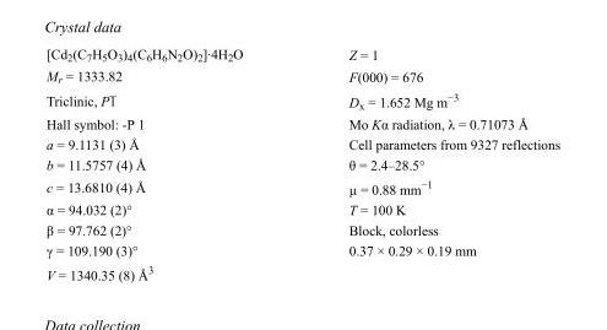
<table><tbody><tr><td>[Cd<sub>2</sub>(C<sub>7</sub>H<sub>5</sub>O<sub>3</sub>)<sub>4</sub>(C<sub>6</sub>H<sub>6</sub>N<sub>2</sub>O)<sub>2</sub>]·4H<sub>2</sub>O</td><td>Z = 1</td></tr><tr><td>M<sub>r</sub> = 1333.82</td><td>F(000) = 676</td></tr><tr><td>Triclinic, P1</td><td>D<sub>x</sub> = 1.652 Mg m<sup>−3</sup></td></tr><tr><td>Hall symbol: -P 1</td><td>Mo Kα radiation, λ = 0.71073 Å</td></tr><tr><td>a = 9.1131 (3) Å</td><td>Cell parameters from 9327 reflections</td></tr><tr><td>b = 11.5757 (4) Å</td><td>θ = 2.4–28.5°</td></tr><tr><td>c = 13.6810 (4) Å</td><td>µ = 0.88 mm<sup>−1</sup></td></tr><tr><td>α = 94.032 (2)°</td><td>T = 100 K</td></tr><tr><td>β = 97.762 (2)°</td><td>Block, colorless</td></tr><tr><td>γ = 109.190 (3)°</td><td>0.37 × 0.29 × 0.19 mm</td></tr><tr><td>V = 1340.35 (8) Å<sup>3</sup></td><td></td></tr></tbody></table>